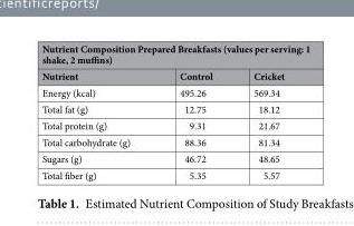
<table><thead><tr><td colspan="3">Nutrient Composition Prepared Breakfasts (values per serving: 1 shake, 2 muffins)</td></tr><tr><td>Nutrient</td><td>Control</td><td>Cricket</td></tr></thead><tbody><tr><td>Energy (kcal)</td><td>495.26</td><td>569.34</td></tr><tr><td>Total fat (g)</td><td>12.75</td><td>18.12</td></tr><tr><td>Total protein (g)</td><td>9.31</td><td>21.67</td></tr><tr><td>Total carbohydrate (g)</td><td>88.36</td><td>81.34</td></tr><tr><td>Sugars (g)</td><td>46.72</td><td>48.65</td></tr><tr><td>Total fiber (g)</td><td>5.35</td><td>5.57</td></tr></tbody></table>